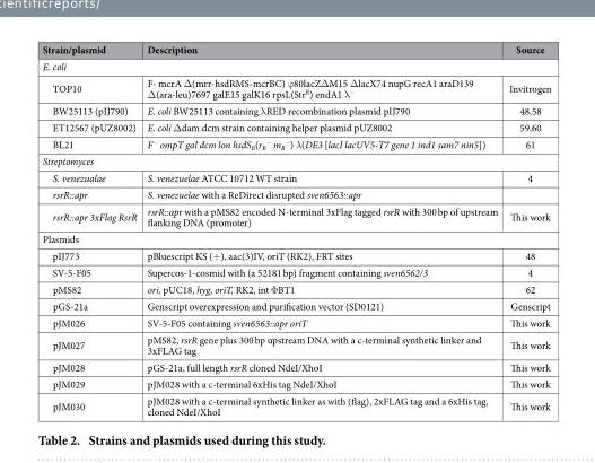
<table><thead><tr><td>Strain/plasmid</td><td>Description</td><td>Source</td></tr></thead><tbody><tr><td colspan="3">E. coli</td></tr><tr><td>TOP10</td><td>F- mcrA Δ (mrr-hsdRMS-mcrBC) ϕ 80lacZΔ M15 Δ lacX74 nupG recA1 araD139 Δ (ara-leu)7697 galE15 galK16 rpsL(Str<sup>R</sup>) endA1 λ <sup>−</sup></td><td>Invitrogen</td></tr><tr><td>BW25113 (pIJ790)</td><td>E. coli BW25113 containing λ RED recombination plasmid pIJ790</td><td>48,58</td></tr><tr><td>ET12567 (pUZ8002)</td><td>E. coli Δ dam dcm strain containing helper plasmid pUZ8002</td><td>59,60</td></tr><tr><td>BL21</td><td>F<sup>−</sup> ompT gal dcm lon hsdS<sub>B</sub>(r<sub>B</sub> <sup>−</sup> m<sub>B</sub> <sup>−</sup>) λ(DE3 [lacI lacUV5-T7 gene 1 ind1 sam7 nin5])</td><td>61</td></tr><tr><td colspan="3">Streptomyces</td></tr><tr><td>S. venezualae</td><td>S. venezuelae ATCC 10712 WT strain</td><td>4</td></tr><tr><td>rsrR::apr</td><td>S. venezuelae with a ReDirect disrupted sven6563::apr</td><td></td></tr><tr><td>rsrR::apr 3xFlag RsrR</td><td>rsrR::apr with a pMS82 encoded N-terminal 3xFlag tagged rsrR with 300 bp of upstream flanking DNA (promoter)</td><td>This work</td></tr><tr><td colspan="3">Plasmids</td></tr><tr><td>pIJ773</td><td>pBluescript KS (+ ), aac(3)IV, oriT (RK2), FRT sites</td><td>48</td></tr><tr><td>SV-5-F05</td><td>Supercos-1-cosmid with (a 52181 bp) fragment containing sven6562/3</td><td>4</td></tr><tr><td>pMS82</td><td>ori, pUC18, hyg, oriT, RK2, int Φ BT1</td><td>62</td></tr><tr><td>pGS-21a</td><td>Genscript overexpression and purification vector (SD0121)</td><td>Genscript</td></tr><tr><td>pJM026</td><td>SV-5-F05 containing sven6563::apr oriT</td><td>This work</td></tr><tr><td>pJM027</td><td>pMS82, rsrR gene plus 300 bp upstream DNA with a c-terminal synthetic linker and 3xFLAG tag</td><td>This work</td></tr><tr><td>pJM028</td><td>pGS-21a, full length rsrR cloned NdeI/XhoI</td><td>This work</td></tr><tr><td>pJM029</td><td>pJM028 with a c-terminal 6xHis tag NdeI/XhoI</td><td>This work</td></tr><tr><td>pJM030</td><td>pJM028 with a c-terminal synthetic linker as with (flag), 2xFLAG tag and a 6xHis tag, cloned NdeI/XhoI</td><td>This work</td></tr></tbody></table>